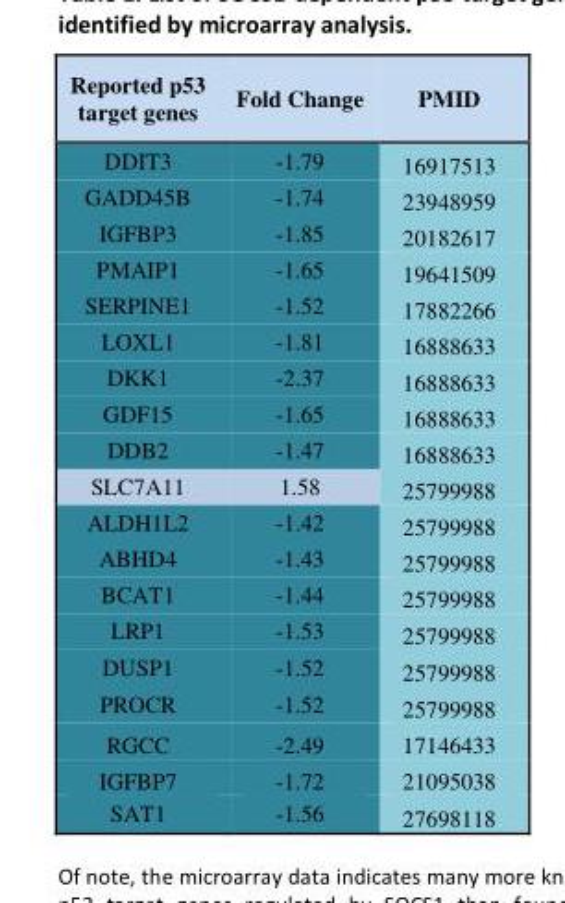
<table><thead><tr><td>Reported p53 target genes</td><td>Fold Change</td><td>PMID</td></tr></thead><tbody><tr><td>DDIT3</td><td>-1.79</td><td>16917513</td></tr><tr><td>GADD45B</td><td>-1.74</td><td>23948959</td></tr><tr><td>IGFBP3</td><td>-1.85</td><td>20182617</td></tr><tr><td>PMAIP1</td><td>-1.65</td><td>19641509</td></tr><tr><td>SERPINE1</td><td>-1.52</td><td>17882266</td></tr><tr><td>LOXL1</td><td>-1.81</td><td>16888633</td></tr><tr><td>DKK1</td><td>-2.37</td><td>16888633</td></tr><tr><td>GDF15</td><td>-1.65</td><td>16888633</td></tr><tr><td>DDB2</td><td>-1.47</td><td>16888633</td></tr><tr><td>SLC7A11</td><td>1.58</td><td>25799988</td></tr><tr><td>ALDH1L2</td><td>-1.42</td><td>25799988</td></tr><tr><td>ABHD4</td><td>-1.43</td><td>25799988</td></tr><tr><td>BCAT1</td><td>-1.44</td><td>25799988</td></tr><tr><td>LRP1</td><td>-1.53</td><td>25799988</td></tr><tr><td>DUSP1</td><td>-1.52</td><td>25799988</td></tr><tr><td>PROCR</td><td>-1.52</td><td>25799988</td></tr><tr><td>RGCC</td><td>-2.49</td><td>17146433</td></tr><tr><td>IGFBP7</td><td>-1.72</td><td>21095038</td></tr><tr><td>SAT1</td><td>-1.56</td><td>27698118</td></tr></tbody></table>